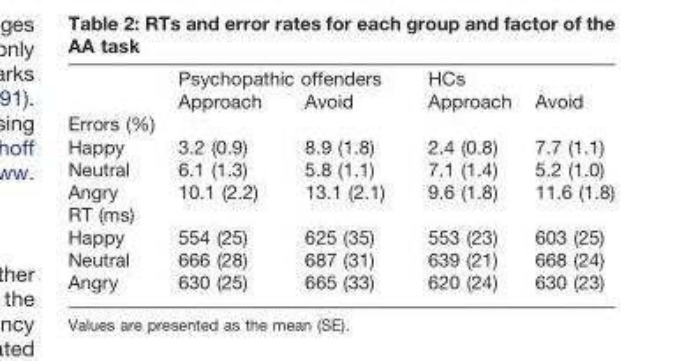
<table><thead><tr><td rowspan="2"></td><td colspan="2">Psychopathic offenders</td><td colspan="2">HCs</td></tr><tr><td>Approach</td><td>Avoid</td><td>Approach</td><td>Avoid</td></tr></thead><tbody><tr><td colspan="5">Errors (%)</td></tr><tr><td>Happy</td><td>3.2 (0.9)</td><td>8.9 (1.8)</td><td>2.4 (0.8)</td><td>7.7 (1.1)</td></tr><tr><td>Neutral</td><td>6.1 (1.3)</td><td>5.8 (1.1)</td><td>7.1 (1.4)</td><td>5.2 (1.0)</td></tr><tr><td>Angry</td><td>10.1 (2.2)</td><td>13.1 (2.1)</td><td>9.6 (1.8)</td><td>11.6 (1.8)</td></tr><tr><td colspan="5">RT (ms)</td></tr><tr><td>Happy</td><td>554 (25)</td><td>625 (35)</td><td>553 (23)</td><td>603 (25)</td></tr><tr><td>Neutral</td><td>666 (28)</td><td>687 (31)</td><td>639 (21)</td><td>668 (24)</td></tr><tr><td>Angry</td><td>630 (25)</td><td>665 (33)</td><td>620 (24)</td><td>630 (23)</td></tr></tbody></table>